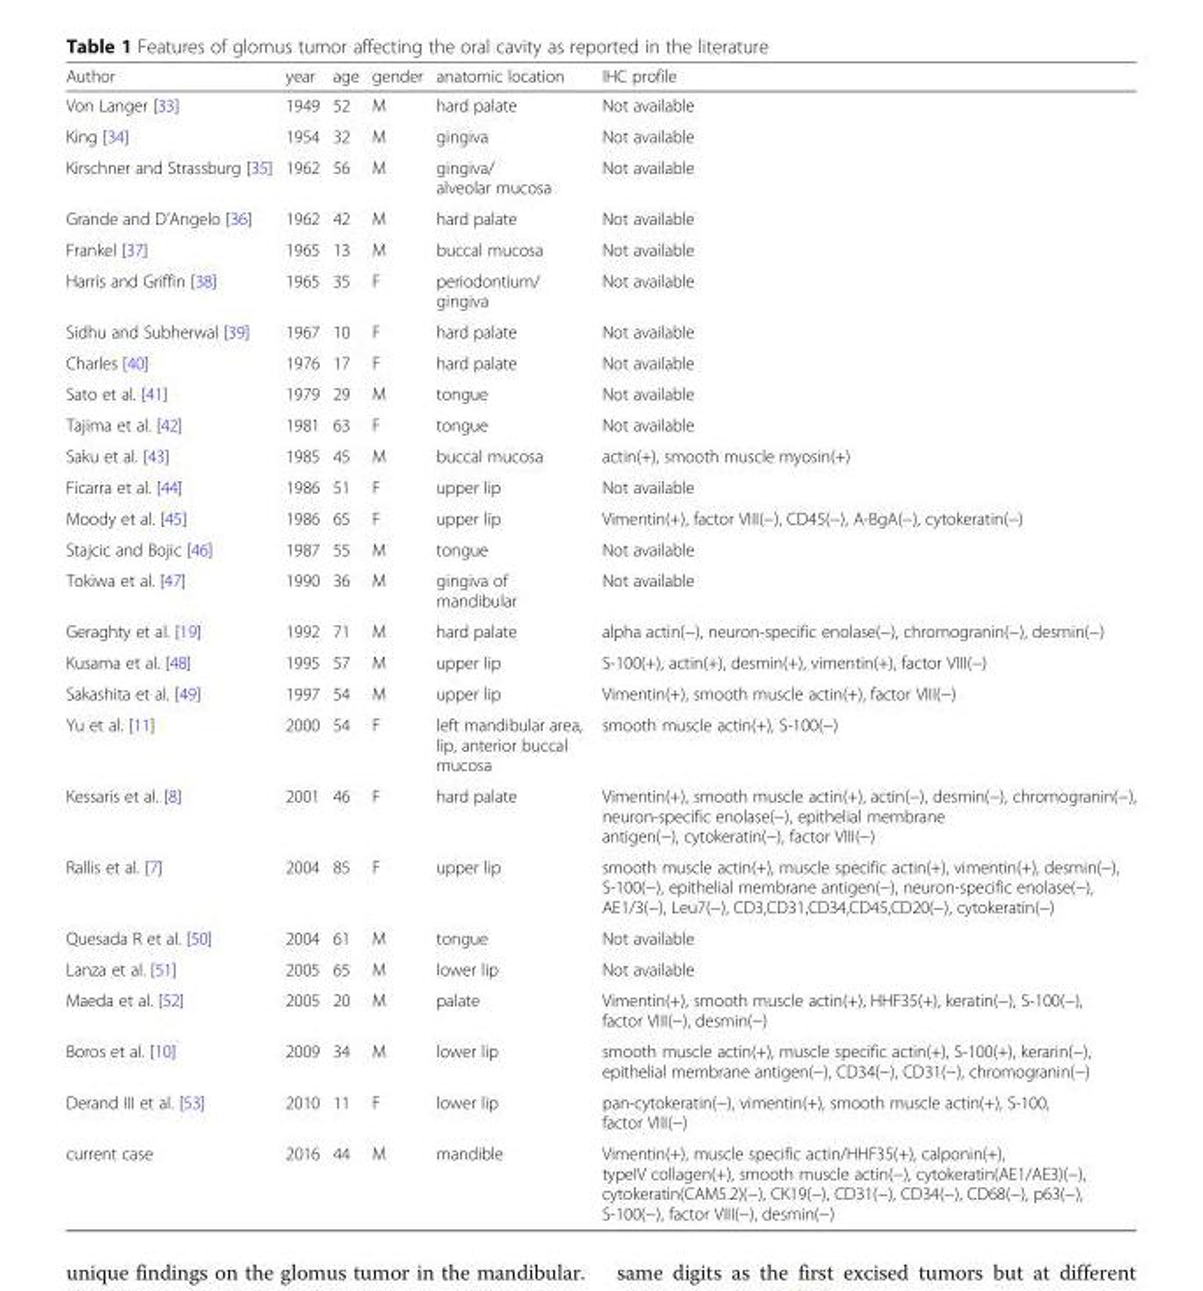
<table><thead><tr><td>Author</td><td>year</td><td>age</td><td>gender</td><td>anatomic location</td><td>IHC profile</td></tr></thead><tbody><tr><td>Von Langer [33]</td><td>1949</td><td>52</td><td>M</td><td>hard palate</td><td>Not available</td></tr><tr><td>King [34]</td><td>1954</td><td>32</td><td>M</td><td>gingiva</td><td>Not available</td></tr><tr><td>Kirschner and Strassburg [35]</td><td>1962</td><td>56</td><td>M</td><td>gingiva/ alveolar mucosa</td><td>Not available</td></tr><tr><td>Grande and D’Angelo [36]</td><td>1962</td><td>42</td><td>M</td><td>hard palate</td><td>Not available</td></tr><tr><td>Frankel [37]</td><td>1965</td><td>13</td><td>M</td><td>buccal mucosa</td><td>Not available</td></tr><tr><td>Harris and Griffin [38]</td><td>1965</td><td>35</td><td>F</td><td>periodontium/ gingiva</td><td>Not available</td></tr><tr><td>Sidhu and Subherwal [39]</td><td>1967</td><td>10</td><td>F</td><td>hard palate</td><td>Not available</td></tr><tr><td>Charles [40]</td><td>1976</td><td>17</td><td>F</td><td>hard palate</td><td>Not available</td></tr><tr><td>Sato et al. [41]</td><td>1979</td><td>29</td><td>M</td><td>tongue</td><td>Not available</td></tr><tr><td>Tajima et al. [42]</td><td>1981</td><td>63</td><td>F</td><td>tongue</td><td>Not available</td></tr><tr><td>Saku et al. [43]</td><td>1985</td><td>45</td><td>M</td><td>buccal mucosa</td><td>actin(+), smooth muscle myosin(+)</td></tr><tr><td>Ficarra et al. [44]</td><td>1986</td><td>51</td><td>F</td><td>upper lip</td><td>Not available</td></tr><tr><td>Moody et al. [45]</td><td>1986</td><td>65</td><td>F</td><td>upper lip</td><td>Vimentin(+), factor VIII(−), CD45(−), A-BgA(−), cytokeratin(−)</td></tr><tr><td>Stajcic and Bojic [46]</td><td>1987</td><td>55</td><td>M</td><td>tongue</td><td>Not available</td></tr><tr><td>Tokiwa et al. [47]</td><td>1990</td><td>36</td><td>M</td><td>gingiva of mandibular</td><td>Not available</td></tr><tr><td>Geraghty et al. [19]</td><td>1992</td><td>71</td><td>M</td><td>hard palate</td><td>alpha actin(−), neuron-specific enolase(−), chromogranin(−), desmin(−)</td></tr><tr><td>Kusama et al. [48]</td><td>1995</td><td>57</td><td>M</td><td>upper lip</td><td>S-100(+), actin(+), desmin(+), vimentin(+), factor VIII(−)</td></tr><tr><td>Sakashita et al. [49]</td><td>1997</td><td>54</td><td>M</td><td>upper lip</td><td>Vimentin(+), smooth muscle actin(+), factor VIII(−)</td></tr><tr><td>Yu et al. [11]</td><td>2000</td><td>54</td><td>F</td><td>left mandibular area, lip, anterior buccal mucosa</td><td>smooth muscle actin(+), S-100(−)</td></tr><tr><td>Kessaris et al. [8]</td><td>2001</td><td>46</td><td>F</td><td>hard palate</td><td>Vimentin(+), smooth muscle actin(+), actin(−), desmin(−), chromogranin(−), neuron-specific enolase(−), epithelial membrane antigen(−), cytokeratin(−), factor VIII(−)</td></tr><tr><td>Rallis et al. [7]</td><td>2004</td><td>85</td><td>F</td><td>upper lip</td><td>smooth muscle actin(+), muscle specific actin(+), vimentin(+), desmin(−), S-100(−), epithelial membrane antigen(−), neuron-specific enolase(−), AE1/3(−), Leu7(−), CD3,CD31,CD34,CD45,CD20(−), cytokeratin(−)</td></tr><tr><td>Quesada R et al. [50]</td><td>2004</td><td>61</td><td>M</td><td>tongue</td><td>Not available</td></tr><tr><td>Lanza et al. [51]</td><td>2005</td><td>65</td><td>M</td><td>lower lip</td><td>Not available</td></tr><tr><td>Maeda et al. [52]</td><td>2005</td><td>20</td><td>M</td><td>palate</td><td>Vimentin(+), smooth muscle actin(+), HHF35(+), keratin(−), S-100(−), factor VIII(−), desmin(−)</td></tr><tr><td>Boros et al. [10]</td><td>2009</td><td>34</td><td>M</td><td>lower lip</td><td>smooth muscle actin(+), muscle specific actin(+), S-100(+), kerarin(−), epithelial membrane antigen(−), CD34(−), CD31(−), chromogranin(−)</td></tr><tr><td>Derand III et al. [53]</td><td>2010</td><td>11</td><td>F</td><td>lower lip</td><td>pan-cytokeratin(−), vimentin(+), smooth muscle actin(+), S-100, factor VIII(−)</td></tr><tr><td>current case</td><td>2016</td><td>44</td><td>M</td><td>mandible</td><td>Vimentin(+), muscle specific actin/HHF35(+), calponin(+), typeIV collagen(+), smooth muscle actin(−), cytokeratin(AE1/AE3)(−), cytokeratin(CAM5.2)(−), CK19(−), CD31(−), CD34(−), CD68(−), p63(−), S-100(−), factor VIII(−), desmin(−)</td></tr></tbody></table>